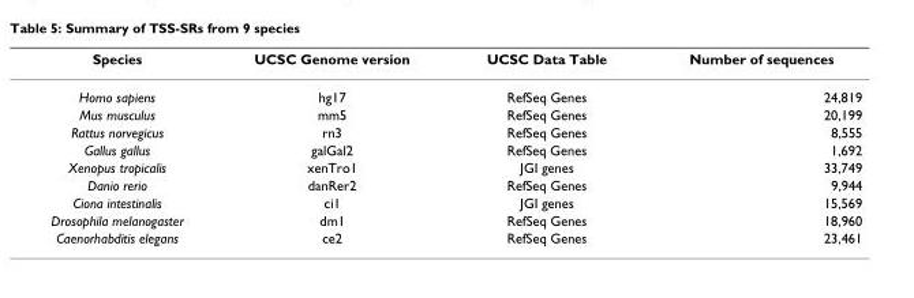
<table><thead><tr><td>Species</td><td>UCSC Genome version</td><td>UCSC Data Table</td><td>Number of sequences</td></tr></thead><tbody><tr><td>Homo sapiens</td><td>hg17</td><td>RefSeq Genes</td><td>24,819</td></tr><tr><td>Mus musculus</td><td>mm5</td><td>RefSeq Genes</td><td>20,199</td></tr><tr><td>Rattus norvegicus</td><td>rn3</td><td>RefSeq Genes</td><td>8,555</td></tr><tr><td>Gallus gallus</td><td>galGal2</td><td>RefSeq Genes</td><td>1,692</td></tr><tr><td>Xenopus tropicalis</td><td>xenTro1</td><td>JGI genes</td><td>33,749</td></tr><tr><td>Danio rerio</td><td>danRer2</td><td>RefSeq Genes</td><td>9,944</td></tr><tr><td>Ciona intestinalis</td><td>ci1</td><td>JGI genes</td><td>15,569</td></tr><tr><td>Drosophila melanogaster</td><td>dm1</td><td>RefSeq Genes</td><td>18,960</td></tr><tr><td>Caenorhabditis elegans</td><td>ce2</td><td>RefSeq Genes</td><td>23,461</td></tr></tbody></table>